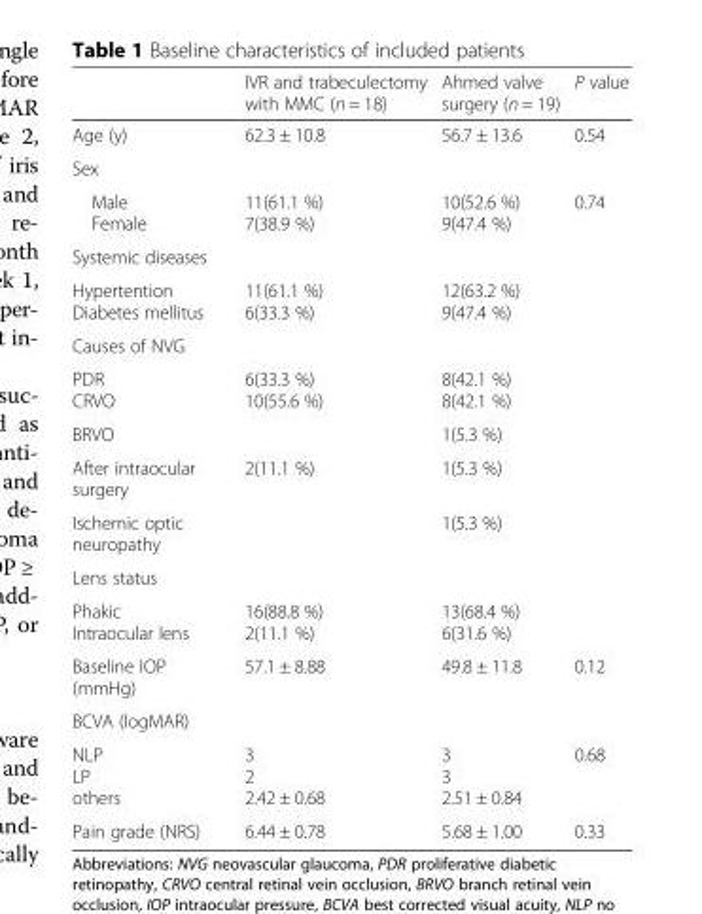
<table><thead><tr><td></td><td>IVR and trabeculectomy with MMC (n = 18)</td><td>Ahmed valve surgery (n = 19)</td><td>P value</td></tr></thead><tbody><tr><td>Age (y)</td><td>62.3 ± 10.8</td><td>56.7 ± 13.6</td><td>0.54</td></tr><tr><td colspan="4">Sex</td></tr><tr><td>Male Female</td><td>11(61.1 %) 7(38.9 %)</td><td>10(52.6 %) 9(47.4 %)</td><td>0.74</td></tr><tr><td colspan="4">Systemic diseases</td></tr><tr><td>Hypertention Diabetes mellitus</td><td>11(61.1 %) 6(33.3 %)</td><td>12(63.2 %) 9(47.4 %)</td><td></td></tr><tr><td colspan="4">Causes of NVG</td></tr><tr><td>PDR CRVO</td><td>6(33.3 %) 10(55.6 %)</td><td>8(42.1 %) 8(42.1 %)</td><td></td></tr><tr><td>BRVO</td><td></td><td>1(5.3 %)</td><td></td></tr><tr><td>After intraocular surgery</td><td>2(11.1 %)</td><td>1(5.3 %)</td><td></td></tr><tr><td>Ischemic optic neuropathy</td><td></td><td>1(5.3 %)</td><td></td></tr><tr><td colspan="4">Lens status</td></tr><tr><td>Phakic Intraocular lens</td><td>16(88.8 %) 2(11.1 %)</td><td>13(68.4 %) 6(31.6 %)</td><td></td></tr><tr><td>Baseline IOP (mmHg)</td><td>57.1 ± 8.88</td><td>49.8 ± 11.8</td><td>0.12</td></tr><tr><td colspan="4">BCVA (logMAR)</td></tr><tr><td>NLP LP others</td><td>3 2 2.42 ± 0.68</td><td>3 3 2.51 ± 0.84</td><td>0.68</td></tr><tr><td>Pain grade (NRS)</td><td>6.44 ± 0.78</td><td>5.68 ± 1.00</td><td>0.33</td></tr></tbody></table>